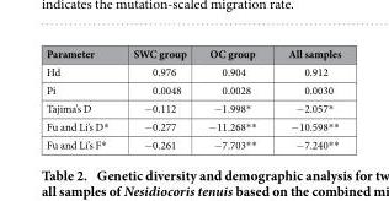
<table><thead><tr><td>Parameter</td><td>SWC group</td><td>OC group</td><td>All samples</td></tr></thead><tbody><tr><td>Hd</td><td>0.976</td><td>0.904</td><td>0.912</td></tr><tr><td>Pi</td><td>0.0048</td><td>0.0028</td><td>0.0030</td></tr><tr><td>Tajima’s D</td><td>− 0.112</td><td>− 1.998*</td><td>− 2.057*</td></tr><tr><td>Fu and Li’s D*</td><td>− 0.277</td><td>− 11.268* *</td><td>− 10.598* *</td></tr><tr><td>Fu and Li’s F*</td><td>− 0.261</td><td>− 7.703* *</td><td>− 7.240* *</td></tr></tbody></table>